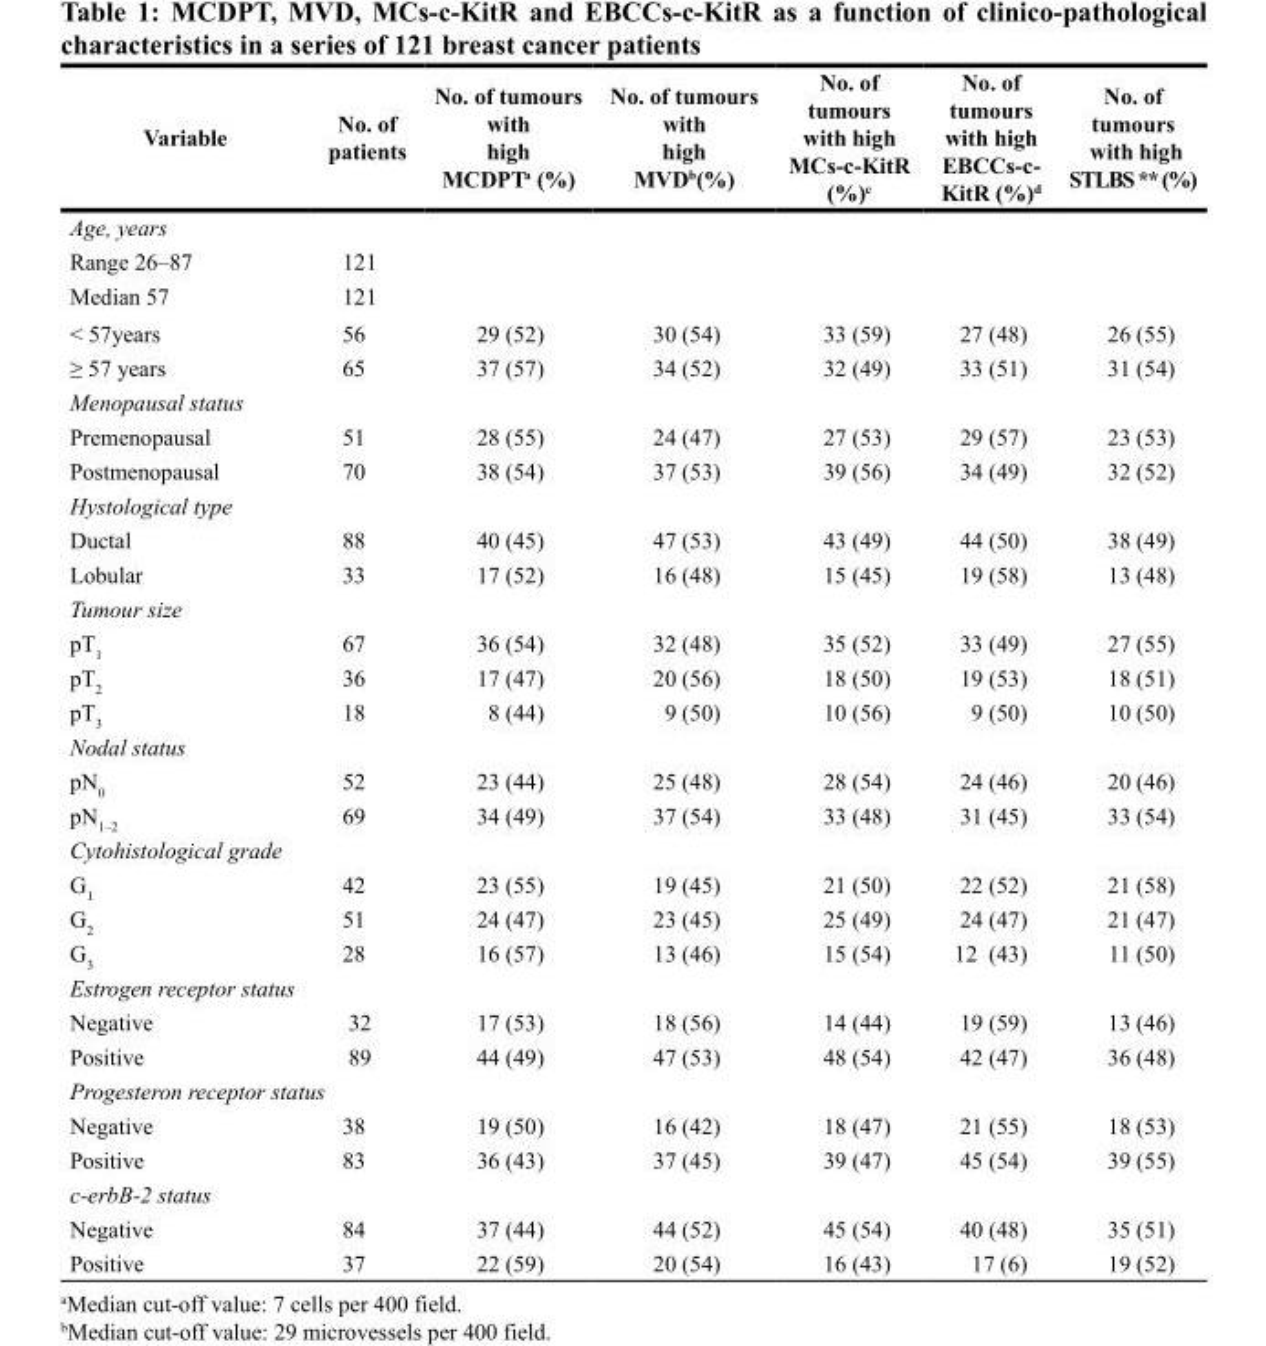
<table><thead><tr><td>Variable</td><td>No. of patients</td><td>No. of tumours with high MCDPT<sup>a</sup> (%)</td><td>No. of tumours with high MVD<sup>b</sup>(%)</td><td>No. of tumours with high MCs-c-KitR (%)<sup>c</sup></td><td>No. of tumours with high EBCCs-c- KitR (%)<sup>d</sup></td><td>No. of tumours with high STLBS ** (%)</td></tr></thead><tbody><tr><td colspan="7">Age, years</td></tr><tr><td>Range 26–87</td><td>121</td><td></td><td></td><td></td><td></td><td></td></tr><tr><td>Median 57</td><td>121</td><td></td><td></td><td></td><td></td><td></td></tr><tr><td>&lt; 57years</td><td>56</td><td>29 (52)</td><td>30 (54)</td><td>33 (59)</td><td>27 (48)</td><td>26 (55)</td></tr><tr><td>≥ 57 years</td><td>65</td><td>37 (57)</td><td>34 (52)</td><td>32 (49)</td><td>33 (51)</td><td>31 (54)</td></tr><tr><td colspan="7">Menopausal status</td></tr><tr><td>Premenopausal</td><td>51</td><td>28 (55)</td><td>24 (47)</td><td>27 (53)</td><td>29 (57)</td><td>23 (53)</td></tr><tr><td>Postmenopausal</td><td>70</td><td>38 (54)</td><td>37 (53)</td><td>39 (56)</td><td>34 (49)</td><td>32 (52)</td></tr><tr><td colspan="7">Hystological type</td></tr><tr><td>Ductal</td><td>88</td><td>40 (45)</td><td>47 (53)</td><td>43 (49)</td><td>44 (50)</td><td>38 (49)</td></tr><tr><td>Lobular</td><td>33</td><td>17 (52)</td><td>16 (48)</td><td>15 (45)</td><td>19 (58)</td><td>13 (48)</td></tr><tr><td colspan="7">Tumour size</td></tr><tr><td>pT<sub>1</sub></td><td>67</td><td>36 (54)</td><td>32 (48)</td><td>35 (52)</td><td>33 (49)</td><td>27 (55)</td></tr><tr><td>pT<sub>2</sub></td><td>36</td><td>17 (47)</td><td>20 (56)</td><td>18 (50)</td><td>19 (53)</td><td>18 (51)</td></tr><tr><td>pT<sub>3</sub></td><td>18</td><td>8 (44)</td><td>9 (50)</td><td>10 (56)</td><td>9 (50)</td><td>10 (50)</td></tr><tr><td colspan="7">Nodal status</td></tr><tr><td>pN<sub>0</sub></td><td>52</td><td>23 (44)</td><td>25 (48)</td><td>28 (54)</td><td>24 (46)</td><td>20 (46)</td></tr><tr><td>pN<sub>1–2</sub></td><td>69</td><td>34 (49)</td><td>37 (54)</td><td>33 (48)</td><td>31 (45)</td><td>33 (54)</td></tr><tr><td colspan="7">Cytohistological grade</td></tr><tr><td>G<sub>1</sub></td><td>42</td><td>23 (55)</td><td>19 (45)</td><td>21 (50)</td><td>22 (52)</td><td>21 (58)</td></tr><tr><td>G<sub>2</sub></td><td>51</td><td>24 (47)</td><td>23 (45)</td><td>25 (49)</td><td>24 (47)</td><td>21 (47)</td></tr><tr><td>G<sub>3</sub></td><td>28</td><td>16 (57)</td><td>13 (46)</td><td>15 (54)</td><td>12 (43)</td><td>11 (50)</td></tr><tr><td colspan="7">Estrogen receptor status</td></tr><tr><td>Negative</td><td>32</td><td>17 (53)</td><td>18 (56)</td><td>14 (44)</td><td>19 (59)</td><td>13 (46)</td></tr><tr><td>Positive</td><td>89</td><td>44 (49)</td><td>47 (53)</td><td>48 (54)</td><td>42 (47)</td><td>36 (48)</td></tr><tr><td colspan="7">Progesteron receptor status</td></tr><tr><td>Negative</td><td>38</td><td>19 (50)</td><td>16 (42)</td><td>18 (47)</td><td>21 (55)</td><td>18 (53)</td></tr><tr><td>Positive</td><td>83</td><td>36 (43)</td><td>37 (45)</td><td>39 (47)</td><td>45 (54)</td><td>39 (55)</td></tr><tr><td colspan="7">c-erbB-2 status</td></tr><tr><td>Negative</td><td>84</td><td>37 (44)</td><td>44 (52)</td><td>45 (54)</td><td>40 (48)</td><td>35 (51)</td></tr><tr><td>Positive</td><td>37</td><td>22 (59)</td><td>20 (54)</td><td>16 (43)</td><td>17 (6)</td><td>19 (52)</td></tr></tbody></table>